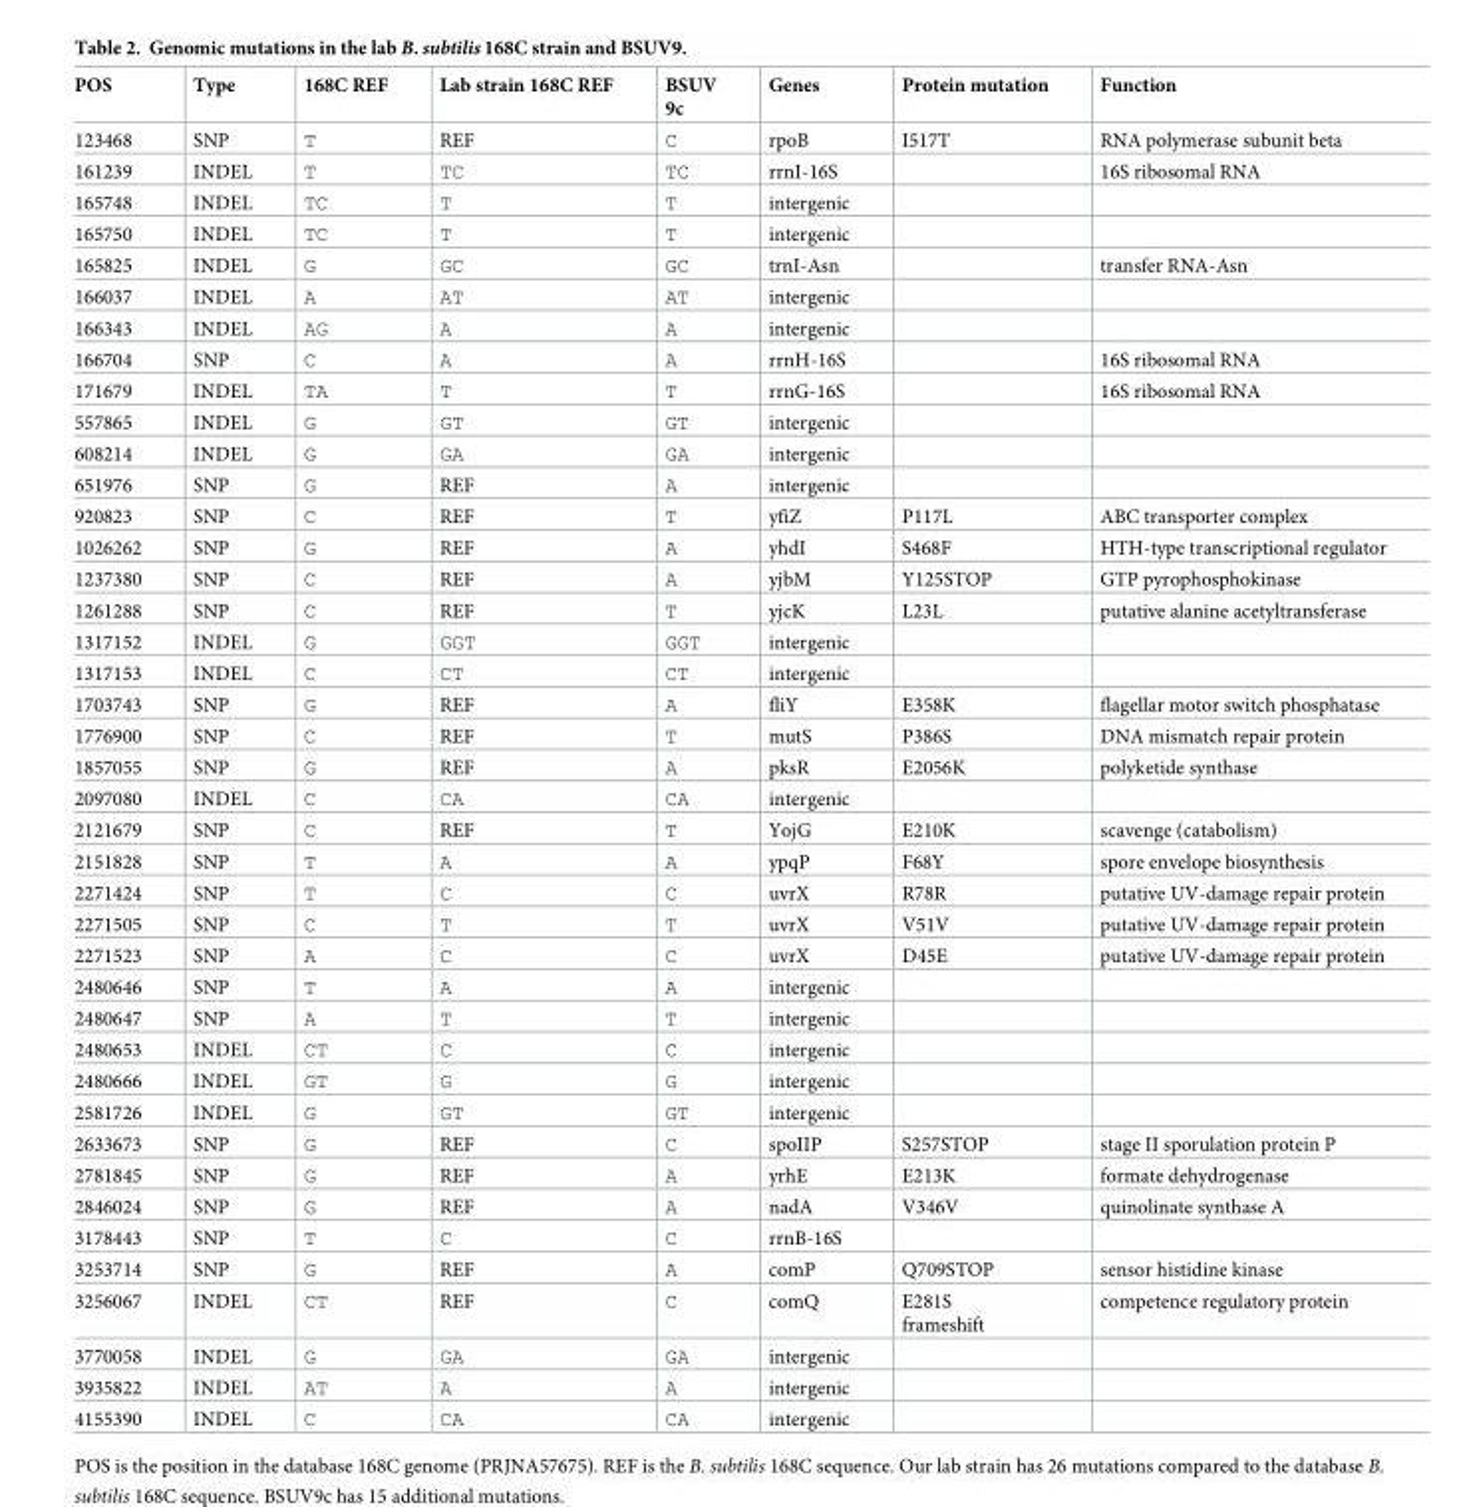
<table><tbody><tr><td>POS</td><td>Type</td><td>168C REF</td><td>Lab strain 168C REF</td><td>BSUV 9c</td><td>Genes</td><td>Protein mutation</td><td>Function</td></tr><tr><td>123468</td><td>SNP</td><td>T</td><td>REF</td><td>C</td><td>rpoB</td><td>I517T</td><td>RNA polymerase subunit beta</td></tr><tr><td>161239</td><td>INDEL</td><td>T</td><td>TC</td><td>TC</td><td>rrnI-16S</td><td></td><td>16S ribosomal RNA</td></tr><tr><td>165748</td><td>INDEL</td><td>TC</td><td>T</td><td>T</td><td>intergenic</td><td></td><td></td></tr><tr><td>165750</td><td>INDEL</td><td>TC</td><td>T</td><td>T</td><td>intergenic</td><td></td><td></td></tr><tr><td>165825</td><td>INDEL</td><td>G</td><td>GC</td><td>GC</td><td>trnI-Asn</td><td></td><td>transfer RNA-Asn</td></tr><tr><td>166037</td><td>INDEL</td><td>A</td><td>AT</td><td>AT</td><td>intergenic</td><td></td><td></td></tr><tr><td>166343</td><td>INDEL</td><td>AG</td><td>A</td><td>A</td><td>intergenic</td><td></td><td></td></tr><tr><td>166704</td><td>SNP</td><td>C</td><td>A</td><td>A</td><td>rrnH-16S</td><td></td><td>16S ribosomal RNA</td></tr><tr><td>171679</td><td>INDEL</td><td>TA</td><td>T</td><td>T</td><td>rrnG-16S</td><td></td><td>16S ribosomal RNA</td></tr><tr><td>557865</td><td>INDEL</td><td>G</td><td>GT</td><td>GT</td><td>intergenic</td><td></td><td></td></tr><tr><td>608214</td><td>INDEL</td><td>G</td><td>GA</td><td>GA</td><td>intergenic</td><td></td><td></td></tr><tr><td>651976</td><td>SNP</td><td>G</td><td>REF</td><td>A</td><td>intergenic</td><td></td><td></td></tr><tr><td>920823</td><td>SNP</td><td>C</td><td>REF</td><td>T</td><td>yfiZ</td><td>P117L</td><td>ABC transporter complex</td></tr><tr><td>1026262</td><td>SNP</td><td>G</td><td>REF</td><td>A</td><td>yhdI</td><td>S468F</td><td>HTH-type transcriptional regulator</td></tr><tr><td>1237380</td><td>SNP</td><td>C</td><td>REF</td><td>A</td><td>yjbM</td><td>Y125STOP</td><td>GTP pyrophosphokinase</td></tr><tr><td>1261288</td><td>SNP</td><td>C</td><td>REF</td><td>T</td><td>yjcK</td><td>L23L</td><td>putative alanine acetyltransferase</td></tr><tr><td>1317152</td><td>INDEL</td><td>G</td><td>GGT</td><td>GGT</td><td>intergenic</td><td></td><td></td></tr><tr><td>1317153</td><td>INDEL</td><td>C</td><td>CT</td><td>CT</td><td>intergenic</td><td></td><td></td></tr><tr><td>1703743</td><td>SNP</td><td>G</td><td>REF</td><td>A</td><td>fliY</td><td>E358K</td><td>flagellar motor switch phosphatase</td></tr><tr><td>1776900</td><td>SNP</td><td>C</td><td>REF</td><td>T</td><td>mutS</td><td>P386S</td><td>DNA mismatch repair protein</td></tr><tr><td>1857055</td><td>SNP</td><td>G</td><td>REF</td><td>A</td><td>pksR</td><td>E2056K</td><td>polyketide synthase</td></tr><tr><td>2097080</td><td>INDEL</td><td>C</td><td>CA</td><td>CA</td><td>intergenic</td><td></td><td></td></tr><tr><td>2121679</td><td>SNP</td><td>C</td><td>REF</td><td>T</td><td>YojG</td><td>E210K</td><td>scavenge (catabolism)</td></tr><tr><td>2151828</td><td>SNP</td><td>T</td><td>A</td><td>A</td><td>ypqP</td><td>F68Y</td><td>spore envelope biosynthesis</td></tr><tr><td>2271424</td><td>SNP</td><td>T</td><td>C</td><td>C</td><td>uvrX</td><td>R78R</td><td>putative UV-damage repair protein</td></tr><tr><td>2271505</td><td>SNP</td><td>C</td><td>T</td><td>T</td><td>uvrX</td><td>V51V</td><td>putative UV-damage repair protein</td></tr><tr><td>2271523</td><td>SNP</td><td>A</td><td>C</td><td>C</td><td>uvrX</td><td>D45E</td><td>putative UV-damage repair protein</td></tr><tr><td>2480646</td><td>SNP</td><td>T</td><td>A</td><td>A</td><td>intergenic</td><td></td><td></td></tr><tr><td>2480647</td><td>SNP</td><td>A</td><td>T</td><td>T</td><td>intergenic</td><td></td><td></td></tr><tr><td>2480653</td><td>INDEL</td><td>CT</td><td>C</td><td>C</td><td>intergenic</td><td></td><td></td></tr><tr><td>2480666</td><td>INDEL</td><td>GT</td><td>G</td><td>G</td><td>intergenic</td><td></td><td></td></tr><tr><td>2581726</td><td>INDEL</td><td>G</td><td>GT</td><td>GT</td><td>intergenic</td><td></td><td></td></tr><tr><td>2633673</td><td>SNP</td><td>G</td><td>REF</td><td>C</td><td>spoIIP</td><td>S257STOP</td><td>stage II sporulation protein P</td></tr><tr><td>2781845</td><td>SNP</td><td>G</td><td>REF</td><td>A</td><td>yrhE</td><td>E213K</td><td>formate dehydrogenase</td></tr><tr><td>2846024</td><td>SNP</td><td>G</td><td>REF</td><td>A</td><td>nadA</td><td>V346V</td><td>quinolinate synthase A</td></tr><tr><td>3178443</td><td>SNP</td><td>T</td><td>C</td><td>C</td><td>rrnB-16S</td><td></td><td></td></tr><tr><td>3253714</td><td>SNP</td><td>G</td><td>REF</td><td>A</td><td>comP</td><td>Q709STOP</td><td>sensor histidine kinase</td></tr><tr><td>3256067</td><td>INDEL</td><td>CT</td><td>REF</td><td>C</td><td>comQ</td><td>E281S frameshift</td><td>competence regulatory protein</td></tr><tr><td>3770058</td><td>INDEL</td><td>G</td><td>GA</td><td>GA</td><td>intergenic</td><td></td><td></td></tr><tr><td>3935822</td><td>INDEL</td><td>AT</td><td>A</td><td>A</td><td>intergenic</td><td></td><td></td></tr><tr><td>4155390</td><td>INDEL</td><td>C</td><td>CA</td><td>CA</td><td>intergenic</td><td></td><td></td></tr></tbody></table>